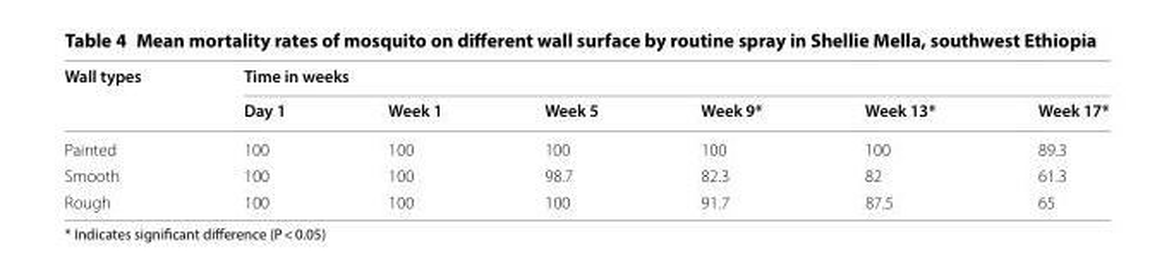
<table><thead><tr><td rowspan="2">Wall types</td><td colspan="6">Time in weeks</td></tr><tr><td>Day 1</td><td>Week 1</td><td>Week 5</td><td>Week 9*</td><td>Week 13*</td><td>Week 17*</td></tr></thead><tbody><tr><td>Painted</td><td>100</td><td>100</td><td>100</td><td>100</td><td>100</td><td>89.3</td></tr><tr><td>Smooth</td><td>100</td><td>100</td><td>98.7</td><td>82.3</td><td>82</td><td>61.3</td></tr><tr><td>Rough</td><td>100</td><td>100</td><td>100</td><td>91.7</td><td>87.5</td><td>65</td></tr></tbody></table>